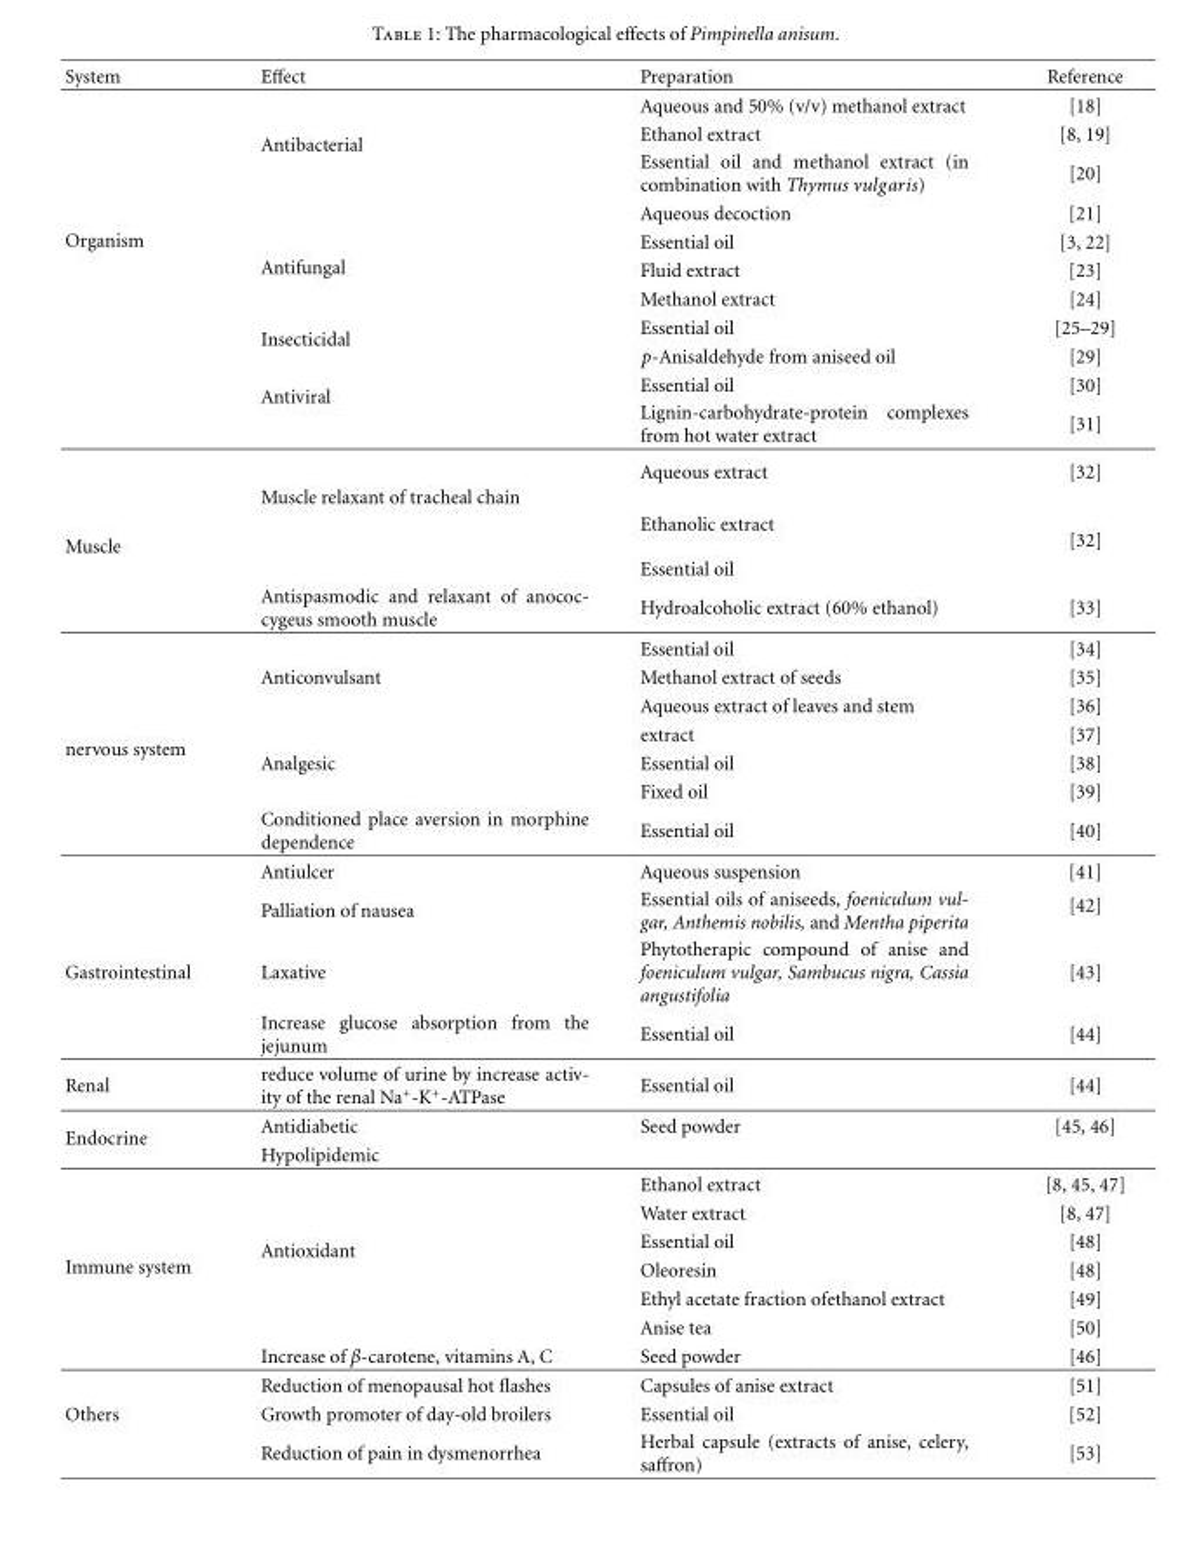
<table><thead><tr><td>System</td><td>Effect</td><td>Preparation</td><td>Reference</td></tr></thead><tbody><tr><td rowspan="11">Organism</td><td rowspan="4">Antibacterial</td><td>Aqueous and 50% (v/v) methanol extract</td><td>[18]</td></tr><tr><td>Ethanol extract</td><td>[8, 19]</td></tr><tr><td>Essential oil and methanol extract (in combination with Thymus vulgaris)</td><td>[20]</td></tr><tr><td>Aqueous decoction</td><td>[21]</td></tr><tr><td rowspan="3">Antifungal</td><td>Essential oil</td><td>[3, 22]</td></tr><tr><td>Fluid extract</td><td>[23]</td></tr><tr><td>Methanol extract</td><td>[24]</td></tr><tr><td rowspan="2">Insecticidal</td><td>Essential oil</td><td>[25–29]</td></tr><tr><td>p-Anisaldehyde from aniseed oil</td><td>[29]</td></tr><tr><td rowspan="2">Antiviral</td><td>Essential oil</td><td>[30]</td></tr><tr><td>Lignin-carbohydrate-protein complexes from hot water extract</td><td>[31]</td></tr><tr><td rowspan="7">Muscle</td><td rowspan="3">Muscle relaxant of tracheal chain</td><td>Aqueous extract</td><td>[32]</td></tr><tr><td>Ethanolic extract</td><td>[32]</td></tr><tr><td>Essential oil</td><td></td></tr><tr><td>Antispasmodic and relaxant of anococ- cygeus smooth muscle</td><td>Hydroalcoholic extract (60% ethanol)</td><td>[33]</td></tr><tr><td></td><td>Essential oil</td><td>[34]</td></tr><tr><td>Anticonvulsant</td><td>Methanol extract of seeds</td><td>[35]</td></tr><tr><td></td><td>Aqueous extract of leaves and stem</td><td>[36]</td></tr><tr><td rowspan="6">nervous system</td><td></td><td>extract</td><td>[37]</td></tr><tr><td>Analgesic</td><td>Essential oil</td><td>[38]</td></tr><tr><td></td><td>Fixed oil</td><td>[39]</td></tr><tr><td>Conditioned place aversion in morphine dependence</td><td>Essential oil</td><td>[40]</td></tr><tr><td>Antiulcer</td><td>Aqueous suspension</td><td>[41]</td></tr><tr><td>Palliation of nausea</td><td>Essential oils of aniseeds, foeniculum vul- gar, Anthemis nobilis, and Mentha piperita</td><td>[42]</td></tr><tr><td rowspan="2">Gastrointestinal</td><td>Laxative</td><td>Phytotherapic compound of anise and foeniculum vulgar, Sambucus nigra, Cassia angustifolia</td><td>[43]</td></tr><tr><td>Increase glucose absorption from the jejunum</td><td>Essential oil</td><td>[44]</td></tr><tr><td>Renal</td><td>reduce volume of urine by increase activ- ity of the renal Na+-K+-ATPase</td><td>Essential oil</td><td>[44]</td></tr><tr><td rowspan="2">Endocrine</td><td>Antidiabetic</td><td>Seed powder</td><td>[45, 46]</td></tr><tr><td>Hypolipidemic</td><td></td><td></td></tr><tr><td rowspan="8">Immune system</td><td rowspan="6">Antioxidant</td><td>Ethanol extract</td><td>[8, 45, 47]</td></tr><tr><td>Water extract</td><td>[8, 47]</td></tr><tr><td>Essential oil</td><td>[48]</td></tr><tr><td>Oleoresin</td><td>[48]</td></tr><tr><td>Ethyl acetate fraction ofethanol extract</td><td>[49]</td></tr><tr><td>Anise tea</td><td>[50]</td></tr><tr><td>Increase of β-carotene, vitamins A, C</td><td>Seed powder</td><td>[46]</td></tr><tr><td>Reduction of menopausal hot flashes</td><td>Capsules of anise extract</td><td>[51]</td></tr><tr><td rowspan="2">Others</td><td>Growth promoter of day-old broilers</td><td>Essential oil</td><td>[52]</td></tr><tr><td>Reduction of pain in dysmenorrhea</td><td>Herbal capsule (extracts of anise, celery, saffron)</td><td>[53]</td></tr></tbody></table>